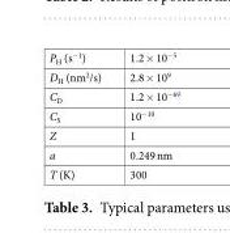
<table><tbody><tr><td>P<sub>H</sub> (s<sup>−1</sup>)</td><td>1.2 × 10<sup>−5</sup></td></tr><tr><td>D<sub>H</sub> (nm<sup>2</sup>/s)</td><td>2.8 × 10<sup>9</sup></td></tr><tr><td>C<sub>D</sub></td><td>1.2 × 10<sup>−69</sup></td></tr><tr><td>C<sub>S</sub></td><td>10<sup>−10</sup></td></tr><tr><td>Z</td><td>1</td></tr><tr><td>a</td><td>0.249 nm</td></tr><tr><td>T (K)</td><td>300</td></tr></tbody></table>